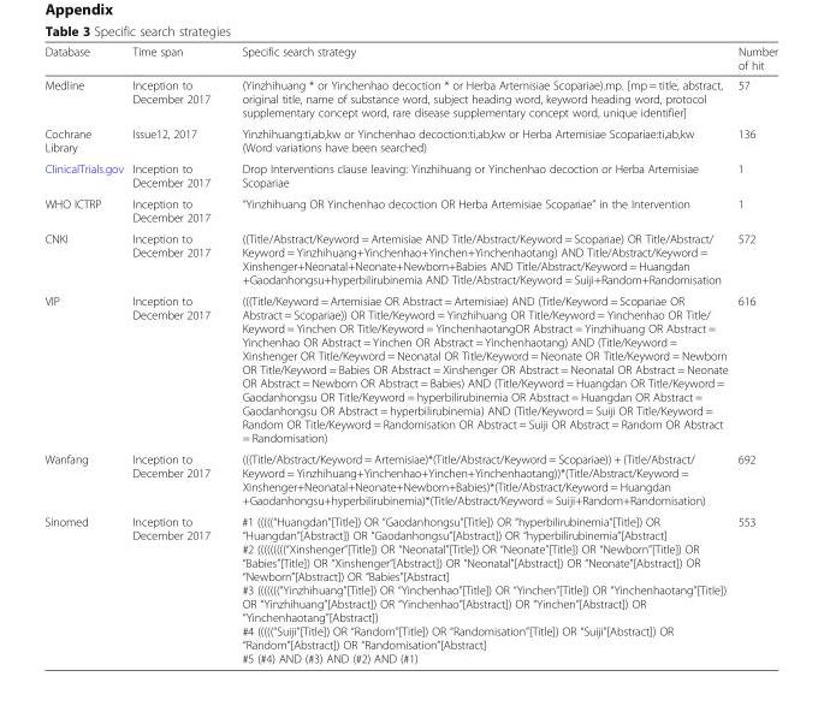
<table><thead><tr><td>Database</td><td>Time span</td><td>Specific search strategy</td><td>Number of hit</td></tr></thead><tbody><tr><td>Medline</td><td>Inception to December 2017</td><td>(Yinzhihuang * or Yinchenhao decoction * or Herba Artemisiae Scopariae).mp. [mp = title, abstract, original title, name of substance word, subject heading word, keyword heading word, protocol supplementary concept word, rare disease supplementary concept word, unique identifier]</td><td>57</td></tr><tr><td>Cochrane Library</td><td>Issue12, 2017</td><td>Yinzhihuang:ti,ab,kw or Yinchenhao decoction:ti,ab,kw or Herba Artemisiae Scopariae:ti,ab,kw (Word variations have been searched)</td><td>136</td></tr><tr><td>ClinicalTrials.gov</td><td>Inception to December 2017</td><td>Drop Interventions clause leaving: Yinzhihuang or Yinchenhao decoction or Herba Artemisiae Scopariae</td><td>1</td></tr><tr><td>WHO ICTRP</td><td>Inception to December 2017</td><td>“Yinzhihuang OR Yinchenhao decoction OR Herba Artemisiae Scopariae” in the Intervention</td><td>1</td></tr><tr><td>CNKI</td><td>Inception to December 2017</td><td>((Title/Abstract/Keyword = Artemisiae AND Title/Abstract/Keyword = Scopariae) OR Title/Abstract/ Keyword = Yinzhihuang+Yinchenhao+Yinchen+Yinchenhaotang) AND Title/Abstract/Keyword = Xinshenger+Neonatal+Neonate+Newborn+Babies AND Title/Abstract/Keyword = Huangdan +Gaodanhongsu+hyperbilirubinemia AND Title/Abstract/Keyword = Suiji+Random+Randomisation</td><td>572</td></tr><tr><td>VIP</td><td>Inception to December 2017</td><td>(((Title/Keyword = Artemisiae OR Abstract = Artemisiae) AND (Title/Keyword = Scopariae OR Abstract = Scopariae)) OR Title/Keyword = Yinzhihuang OR Title/Keyword = Yinchenhao OR Title/ Keyword = Yinchen OR Title/Keyword = YinchenhaotangOR Abstract = Yinzhihuang OR Abstract = Yinchenhao OR Abstract = Yinchen OR Abstract = Yinchenhaotang) AND (Title/Keyword = Xinshenger OR Title/Keyword = Neonatal OR Title/Keyword = Neonate OR Title/Keyword = Newborn OR Title/Keyword = Babies OR Abstract = Xinshenger OR Abstract = Neonatal OR Abstract = Neonate OR Abstract = Newborn OR Abstract = Babies) AND (Title/Keyword = Huangdan OR Title/Keyword = Gaodanhongsu OR Title/Keyword = hyperbilirubinemia OR Abstract = Huangdan OR Abstract = Gaodanhongsu OR Abstract = hyperbilirubinemia) AND (Title/Keyword = Suiji OR Title/Keyword = Random OR Title/Keyword = Randomisation OR Abstract = Suiji OR Abstract = Random OR Abstract = Randomisation)</td><td>616</td></tr><tr><td>Wanfang</td><td>Inception to December 2017</td><td>(((Title/Abstract/Keyword = Artemisiae)*(Title/Abstract/Keyword = Scopariae)) + (Title/Abstract/ Keyword = Yinzhihuang+Yinchenhao+Yinchen+Yinchenhaotang))*(Title/Abstract/Keyword = Xinshenger+Neonatal+Neonate+Newborn+Babies)*(Title/Abstract/Keyword = Huangdan +Gaodanhongsu+hyperbilirubinemia)*(Title/Abstract/Keyword = Suiji+Random+Randomisation)</td><td>692</td></tr><tr><td>Sinomed</td><td>Inception to December 2017</td><td>#1 (((((“Huangdan”[Title]) OR “Gaodanhongsu”[Title]) OR “hyperbilirubinemia”[Title]) OR “Huangdan”[Abstract]) OR “Gaodanhongsu”[Abstract]) OR “hyperbilirubinemia”[Abstract] #2 (((((((((“Xinshenger”[Title]) OR “Neonatal”[Title]) OR “Neonate”[Title]) OR “Newborn”[Title]) OR “Babies”[Title]) OR “Xinshenger”[Abstract]) OR “Neonatal”[Abstract]) OR “Neonate”[Abstract]) OR “Newborn”[Abstract]) OR “Babies”[Abstract] #3 (((((((“Yinzhihuang”[Title]) OR “Yinchenhao”[Title]) OR “Yinchen”[Title]) OR “Yinchenhaotang”[Title]) OR “Yinzhihuang”[Abstract]) OR “Yinchenhao”[Abstract]) OR “Yinchen”[Abstract]) OR “Yinchenhaotang”[Abstract]) #4 (((((“Suiji”[Title]) OR “Random”[Title]) OR “Randomisation”[Title]) OR “Suiji”[Abstract]) OR “Random”[Abstract]) OR “Randomisation”[Abstract] #5 (#4) AND (#3) AND (#2) AND (#1)</td><td>553</td></tr></tbody></table>